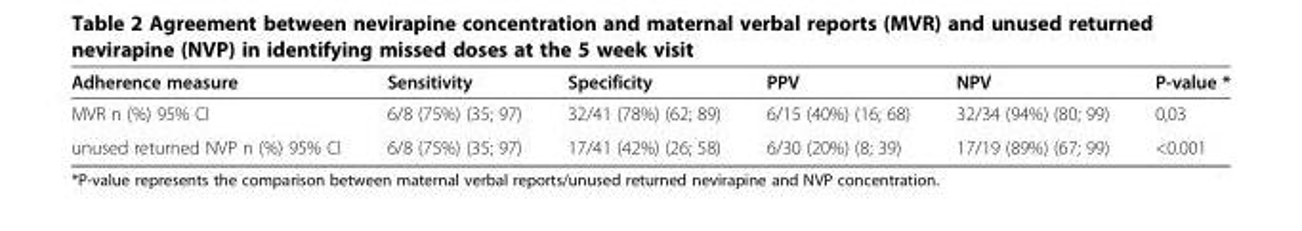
<table><thead><tr><td>Adherence measure</td><td>Sensitivity</td><td>Specificity</td><td>PPV</td><td>NPV</td><td>P-value *</td></tr></thead><tbody><tr><td>MVR n (%) 95% CI</td><td>6/8 (75%) (35; 97)</td><td>32/41 (78%) (62; 89)</td><td>6/15 (40%) (16; 68)</td><td>32/34 (94%) (80; 99)</td><td>0,03</td></tr><tr><td>unused returned NVP n (%) 95% CI</td><td>6/8 (75%) (35; 97)</td><td>17/41 (42%) (26; 58)</td><td>6/30 (20%) (8; 39)</td><td>17/19 (89%) (67; 99)</td><td>&lt;0.001</td></tr></tbody></table>